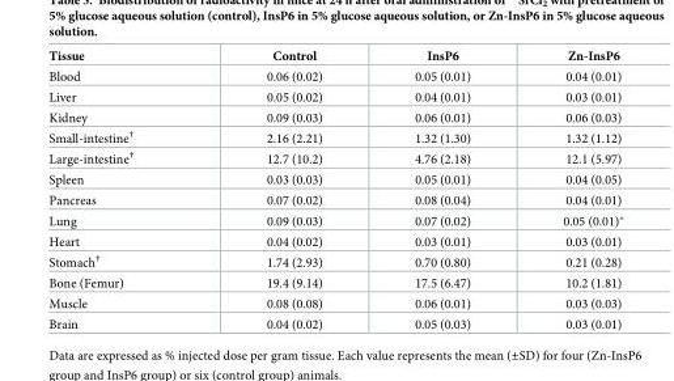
<table><thead><tr><td>Tissue</td><td>Control</td><td>InsP6</td><td>Zn-InsP6</td></tr></thead><tbody><tr><td>Blood</td><td>0.06 (0.02)</td><td>0.05 (0.01)</td><td>0.04 (0.01)</td></tr><tr><td>Liver</td><td>0.05 (0.02)</td><td>0.04 (0.01)</td><td>0.03 (0.01)</td></tr><tr><td>Kidney</td><td>0.09 (0.03)</td><td>0.06 (0.01)</td><td>0.06 (0.03)</td></tr><tr><td>Small-intestine<sup>†</sup></td><td>2.16 (2.21)</td><td>1.32 (1.30)</td><td>1.32 (1.12)</td></tr><tr><td>Large-intestine<sup>†</sup></td><td>12.7 (10.2)</td><td>4.76 (2.18)</td><td>12.1 (5.97)</td></tr><tr><td>Spleen</td><td>0.03 (0.03)</td><td>0.05 (0.01)</td><td>0.04 (0.05)</td></tr><tr><td>Pancreas</td><td>0.07 (0.02)</td><td>0.08 (0.04)</td><td>0.04 (0.01)</td></tr><tr><td>Lung</td><td>0.09 (0.03)</td><td>0.07 (0.02)</td><td>0.05 (0.01)*</td></tr><tr><td>Heart</td><td>0.04 (0.02)</td><td>0.03 (0.01)</td><td>0.03 (0.01)</td></tr><tr><td>Stomach<sup>†</sup></td><td>1.74 (2.93)</td><td>0.70 (0.80)</td><td>0.21 (0.28)</td></tr><tr><td>Bone (Femur)</td><td>19.4 (9.14)</td><td>17.5 (6.47)</td><td>10.2 (1.81)</td></tr><tr><td>Muscle</td><td>0.08 (0.08)</td><td>0.06 (0.01)</td><td>0.03 (0.03)</td></tr><tr><td>Brain</td><td>0.04 (0.02)</td><td>0.05 (0.03)</td><td>0.03 (0.01)</td></tr></tbody></table>